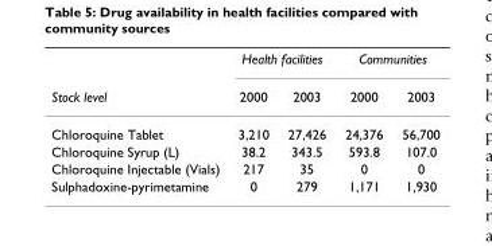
<table><thead><tr><td rowspan="2">Stock level</td><td colspan="2">Health facilities</td><td colspan="2">Communities</td></tr><tr><td>2000</td><td>2003</td><td>2000</td><td>2003</td></tr></thead><tbody><tr><td>Chloroquine Tablet</td><td>3,210</td><td>27,426</td><td>24,376</td><td>56,700</td></tr><tr><td>Chloroquine Syrup (L)</td><td>38.2</td><td>343.5</td><td>593.8</td><td>107.0</td></tr><tr><td>Chloroquine Injectable (Vials)</td><td>217</td><td>35</td><td>0</td><td>0</td></tr><tr><td>Sulphadoxine-pyrimetamine</td><td>0</td><td>279</td><td>1,171</td><td>1,930</td></tr></tbody></table>